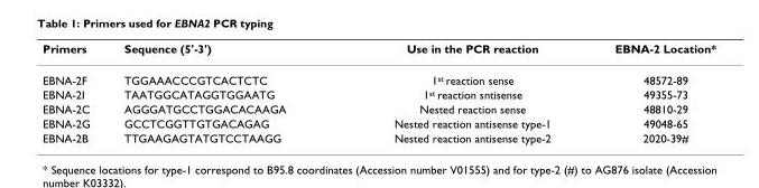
<table><thead><tr><td>Primers</td><td>Sequence (5&#x27;-3&#x27;)</td><td>Use in the PCR reaction</td><td>EBNA-2 Location*</td></tr></thead><tbody><tr><td>EBNA-2F</td><td>TGGAAACCCGTCACTCTC</td><td>1<sup>st</sup> reaction sense</td><td>48572-89</td></tr><tr><td>EBNA-2I</td><td>TAATGGCATAGGTGGAATG</td><td>1<sup>st</sup> reaction sntisense</td><td>49355-73</td></tr><tr><td>EBNA-2C</td><td>AGGGATGCCTGGACACAAGA</td><td>Nested reaction sense</td><td>48810-29</td></tr><tr><td>EBNA-2G</td><td>GCCTCGGTTGTGACAGAG</td><td>Nested reaction antisense type-1</td><td>49048-65</td></tr><tr><td>EBNA-2B</td><td>TTGAAGAGTATGTCCTAAGG</td><td>Nested reaction antisense type-2</td><td>2020-39#</td></tr></tbody></table>